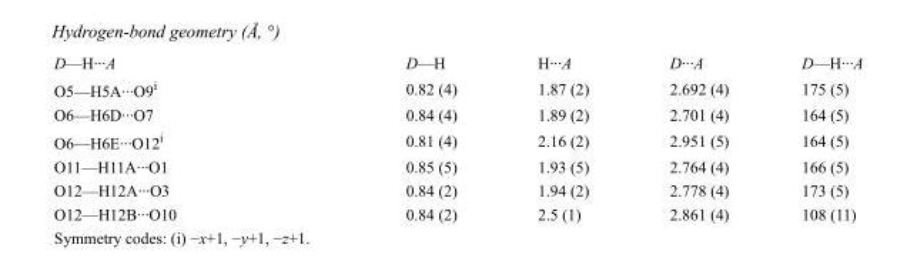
<table><tbody><tr><td>D—H···A</td><td>D—H</td><td>H···A</td><td>D···A</td><td>D—H···A</td></tr><tr><td>O5—H5A···O9<sup>i</sup></td><td>0.82 (4)</td><td>1.87 (2)</td><td>2.692 (4)</td><td>175 (5)</td></tr><tr><td>O6—H6D···O7</td><td>0.84 (4)</td><td>1.89 (2)</td><td>2.701 (4)</td><td>164 (5)</td></tr><tr><td>O6—H6E···O12<sup>i</sup></td><td>0.81 (4)</td><td>2.16 (2)</td><td>2.951 (5)</td><td>164 (5)</td></tr><tr><td>O11—H11A···O1</td><td>0.85 (5)</td><td>1.93 (5)</td><td>2.764 (4)</td><td>166 (5)</td></tr><tr><td>O12—H12A···O3</td><td>0.84 (2)</td><td>1.94 (2)</td><td>2.778 (4)</td><td>173 (5)</td></tr><tr><td>O12—H12B···O10</td><td>0.84 (2)</td><td>2.5 (1)</td><td>2.861 (4)</td><td>108 (11)</td></tr></tbody></table>